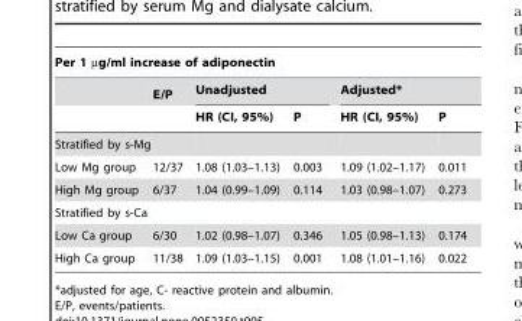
<table><thead><tr><td colspan="6">Per 1 µg/ml increase of adiponectin</td></tr><tr><td rowspan="2"></td><td rowspan="2">E/P</td><td colspan="2">Unadjusted</td><td colspan="2">Adjusted*</td></tr><tr><td>HR (CI, 95%)</td><td>P</td><td>HR (CI, 95%)</td><td>P</td></tr></thead><tbody><tr><td colspan="6">Stratified by s-Mg</td></tr><tr><td>Low Mg group</td><td>12/37</td><td>1.08 (1.03–1.13)</td><td>0.003</td><td>1.09 (1.02–1.17)</td><td>0.011</td></tr><tr><td>High Mg group</td><td>6/37</td><td>1.04 (0.99–1.09)</td><td>0.114</td><td>1.03 (0.98–1.07)</td><td>0.273</td></tr><tr><td colspan="6">Stratified by s-Ca</td></tr><tr><td>Low Ca group</td><td>6/30</td><td>1.02 (0.98–1.07)</td><td>0.346</td><td>1.05 (0.98–1.13)</td><td>0.174</td></tr><tr><td>High Ca group</td><td>11/38</td><td>1.09 (1.03–1.15)</td><td>0.001</td><td>1.08 (1.01–1.16)</td><td>0.022</td></tr></tbody></table>